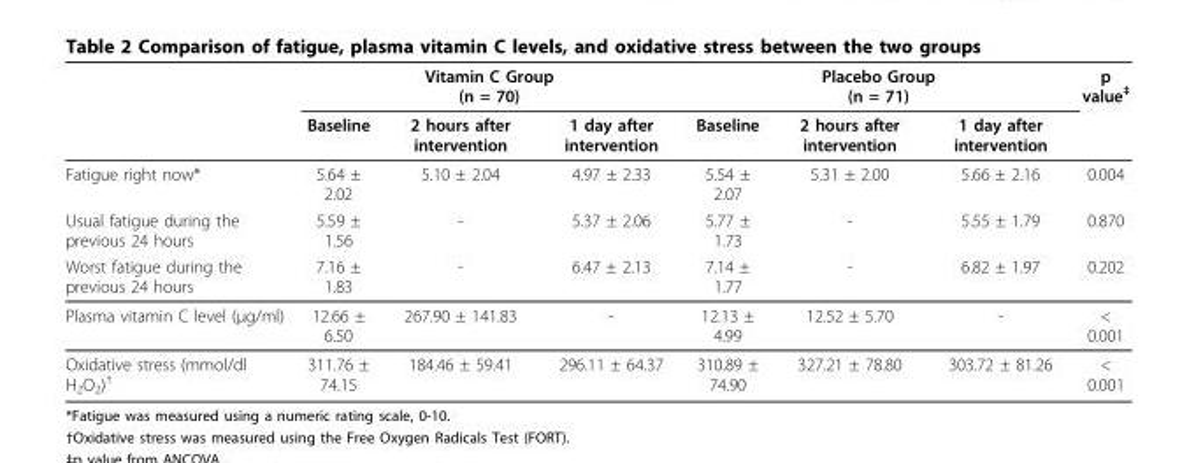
<table><thead><tr><td rowspan="2"></td><td colspan="3">Vitamin C Group (n = 70)</td><td colspan="3">Placebo Group (n = 71)</td><td rowspan="2">p value<sup>‡</sup></td></tr><tr><td>Baseline</td><td>2 hours after intervention</td><td>1 day after intervention</td><td>Baseline</td><td>2 hours after intervention</td><td>1 day after intervention</td></tr></thead><tbody><tr><td>Fatigue right now*</td><td>5.64 ± 2.02</td><td>5.10 ± 2.04</td><td>4.97 ± 2.33</td><td>5.54 ± 2.07</td><td>5.31 ± 2.00</td><td>5.66 ± 2.16</td><td>0.004</td></tr><tr><td>Usual fatigue during the previous 24 hours</td><td>5.59 ± 1.56</td><td>-</td><td>5.37 ± 2.06</td><td>5.77 ± 1.73</td><td>-</td><td>5.55 ± 1.79</td><td>0.870</td></tr><tr><td>Worst fatigue during the previous 24 hours</td><td>7.16 ± 1.83</td><td>-</td><td>6.47 ± 2.13</td><td>7.14 ± 1.77</td><td>-</td><td>6.82 ± 1.97</td><td>0.202</td></tr><tr><td>Plasma vitamin C level (μg/ml)</td><td>12.66 ± 6.50</td><td>267.90 ± 141.83</td><td>-</td><td>12.13 ± 4.99</td><td>12.52 ± 5.70</td><td>-</td><td>&lt; 0.001</td></tr><tr><td>Oxidative stress (mmol/dl H<sub>2</sub>O<sub>2</sub>)<sup>†</sup></td><td>311.76 ± 74.15</td><td>184.46 ± 59.41</td><td>296.11 ± 64.37</td><td>310.89 ± 74.90</td><td>327.21 ± 78.80</td><td>303.72 ± 81.26</td><td>&lt; 0.001</td></tr></tbody></table>